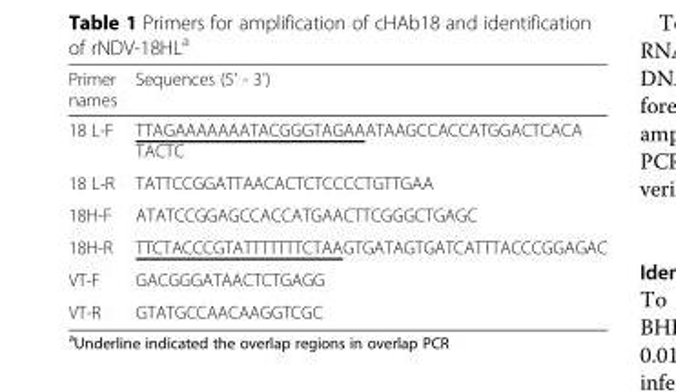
<table><thead><tr><td>Primer names</td><td>Sequences (5&#x27; - 3&#x27;)</td></tr></thead><tbody><tr><td>18 L-F</td><td>TTAGAAAAAAATACGGGTAGAAATAAGCCACCATGGACTCACA TACTC</td></tr><tr><td>18 L-R</td><td>TATTCCGGATTAACACTCTCCCCTGTTGAA</td></tr><tr><td>18H-F</td><td>ATATCCGGAGCCACCATGAACTTCGGGCTGAGC</td></tr><tr><td>18H-R</td><td>TTCTACCCGTATTTTTTTCTAAGTGATAGTGATCATTTACCCGGAGAC</td></tr><tr><td>VT-F</td><td>GACGGGATAACTCTGAGG</td></tr><tr><td>VT-R</td><td>GTATGCCAACAAGGTCGC</td></tr></tbody></table>